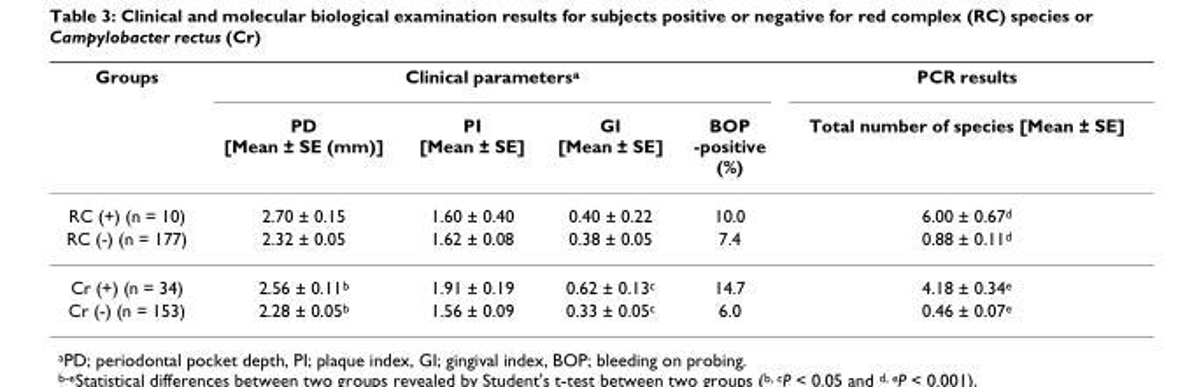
<table><thead><tr><td rowspan="2">Groups</td><td colspan="4">Clinical parameters<sup>a</sup></td><td rowspan="2">PCR results Total number of species [Mean ± SE]</td></tr><tr><td>PD [Mean ± SE (mm)]</td><td>PI [Mean ± SE]</td><td>GI [Mean ± SE]</td><td>BOP -positive (%)</td></tr></thead><tbody><tr><td>RC (+) (n = 10)</td><td>2.70 ± 0.15</td><td>1.60 ± 0.40</td><td>0.40 ± 0.22</td><td>10.0</td><td>6.00 ± 0.67<sup>d</sup></td></tr><tr><td>RC (-) (n = 177)</td><td>2.32 ± 0.05</td><td>1.62 ± 0.08</td><td>0.38 ± 0.05</td><td>7.4</td><td>0.88 ± 0.11<sup>d</sup></td></tr><tr><td>Cr (+) (n = 34)</td><td>2.56 ± 0.11<sup>b</sup></td><td>1.91 ± 0.19</td><td>0.62 ± 0.13<sup>c</sup></td><td>14.7</td><td>4.18 ± 0.34<sup>e</sup></td></tr><tr><td>Cr (-) (n = 153)</td><td>2.28 ± 0.05<sup>b</sup></td><td>1.56 ± 0.09</td><td>0.33 ± 0.05<sup>c</sup></td><td>6.0</td><td>0.46 ± 0.07<sup>e</sup></td></tr></tbody></table>